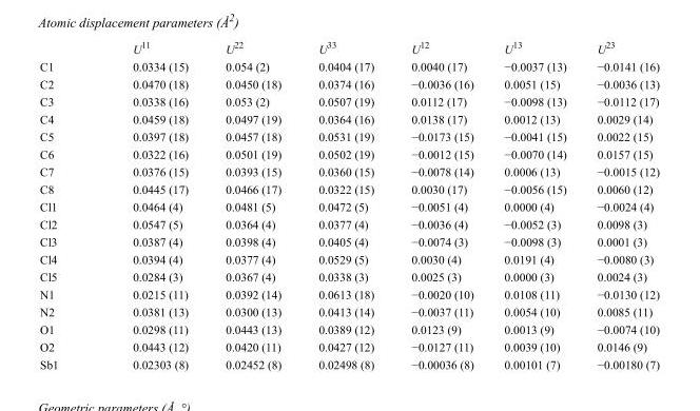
<table><thead><tr><td></td><td>U<sup>11</sup></td><td>U<sup>22</sup></td><td>U<sup>33</sup></td><td>U<sup>12</sup></td><td>U<sup>13</sup></td><td>U<sup>23</sup></td></tr></thead><tbody><tr><td>C1</td><td>0.0334 (15)</td><td>0.054 (2)</td><td>0.0404 (17)</td><td>0.0040 (17)</td><td>−0.0037 (13)</td><td>−0.0141 (16)</td></tr><tr><td>C2</td><td>0.0470 (18)</td><td>0.0450 (18)</td><td>0.0374 (16)</td><td>−0.0036 (16)</td><td>0.0051 (15)</td><td>−0.0036 (13)</td></tr><tr><td>C3</td><td>0.0338 (16)</td><td>0.053 (2)</td><td>0.0507 (19)</td><td>0.0112 (17)</td><td>−0.0098 (13)</td><td>−0.0112 (17)</td></tr><tr><td>C4</td><td>0.0459 (18)</td><td>0.0497 (19)</td><td>0.0364 (16)</td><td>0.0138 (17)</td><td>0.0012 (13)</td><td>0.0029 (14)</td></tr><tr><td>C5</td><td>0.0397 (18)</td><td>0.0457 (18)</td><td>0.0531 (19)</td><td>−0.0173 (15)</td><td>−0.0041 (15)</td><td>0.0022 (15)</td></tr><tr><td>C6</td><td>0.0322 (16)</td><td>0.0501 (19)</td><td>0.0502 (19)</td><td>−0.0012 (15)</td><td>−0.0070 (14)</td><td>0.0157 (15)</td></tr><tr><td>C7</td><td>0.0376 (15)</td><td>0.0393 (15)</td><td>0.0360 (15)</td><td>−0.0078 (14)</td><td>0.0006 (13)</td><td>−0.0015 (12)</td></tr><tr><td>C8</td><td>0.0445 (17)</td><td>0.0466 (17)</td><td>0.0322 (15)</td><td>0.0030 (17)</td><td>−0.0056 (15)</td><td>0.0060 (12)</td></tr><tr><td>Cl1</td><td>0.0464 (4)</td><td>0.0481 (5)</td><td>0.0472 (5)</td><td>−0.0051 (4)</td><td>0.0000 (4)</td><td>−0.0024 (4)</td></tr><tr><td>Cl2</td><td>0.0547 (5)</td><td>0.0364 (4)</td><td>0.0377 (4)</td><td>−0.0036 (4)</td><td>−0.0052 (3)</td><td>0.0098 (3)</td></tr><tr><td>Cl3</td><td>0.0387 (4)</td><td>0.0398 (4)</td><td>0.0405 (4)</td><td>−0.0074 (3)</td><td>−0.0098 (3)</td><td>0.0001 (3)</td></tr><tr><td>Cl4</td><td>0.0394 (4)</td><td>0.0377 (4)</td><td>0.0529 (5)</td><td>0.0030 (4)</td><td>0.0191 (4)</td><td>−0.0080 (3)</td></tr><tr><td>Cl5</td><td>0.0284 (3)</td><td>0.0367 (4)</td><td>0.0338 (3)</td><td>0.0025 (3)</td><td>0.0000 (3)</td><td>0.0024 (3)</td></tr><tr><td>N1</td><td>0.0215 (11)</td><td>0.0392 (14)</td><td>0.0613 (18)</td><td>−0.0020 (10)</td><td>0.0108 (11)</td><td>−0.0130 (12)</td></tr><tr><td>N2</td><td>0.0381 (13)</td><td>0.0300 (13)</td><td>0.0413 (14)</td><td>−0.0037 (11)</td><td>0.0054 (10)</td><td>0.0085 (11)</td></tr><tr><td>O1</td><td>0.0298 (11)</td><td>0.0443 (13)</td><td>0.0389 (12)</td><td>0.0123 (9)</td><td>0.0013 (9)</td><td>−0.0074 (10)</td></tr><tr><td>O2</td><td>0.0443 (12)</td><td>0.0420 (11)</td><td>0.0427 (12)</td><td>−0.0127 (11)</td><td>0.0039 (10)</td><td>0.0146 (9)</td></tr><tr><td>Sb1</td><td>0.02303 (8)</td><td>0.02452 (8)</td><td>0.02498 (8)</td><td>−0.00036 (8)</td><td>0.00101 (7)</td><td>−0.00180 (7)</td></tr></tbody></table>